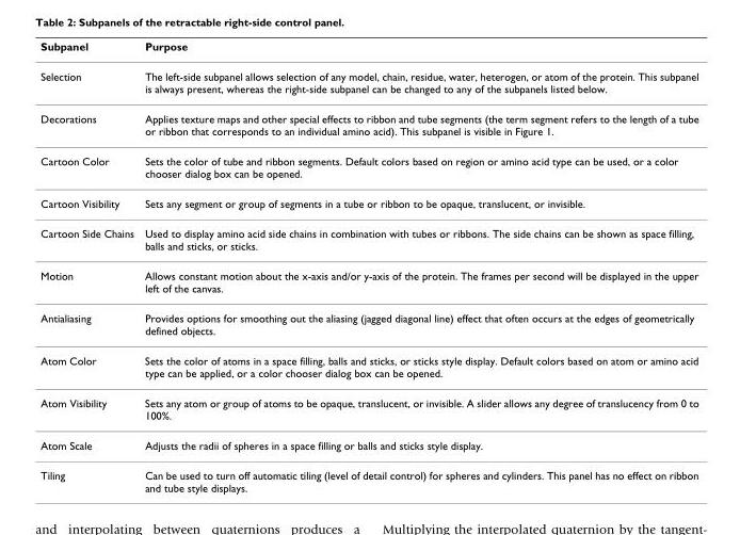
<table><thead><tr><td>Subpanel</td><td>Purpose</td></tr></thead><tbody><tr><td>Selection</td><td>The left-side subpanel allows selection of any model, chain, residue, water, heterogen, or atom of the protein. This subpanel is always present, whereas the right-side subpanel can be changed to any of the subpanels listed below.</td></tr><tr><td>Decorations</td><td>Applies texture maps and other special effects to ribbon and tube segments (the term segment refers to the length of a tube or ribbon that corresponds to an individual amino acid). This subpanel is visible in Figure 1.</td></tr><tr><td>Cartoon Color</td><td>Sets the color of tube and ribbon segments. Default colors based on region or amino acid type can be used, or a color chooser dialog box can be opened.</td></tr><tr><td>Cartoon Visibility</td><td>Sets any segment or group of segments in a tube or ribbon to be opaque, translucent, or invisible.</td></tr><tr><td>Cartoon Side Chains</td><td>Used to display amino acid side chains in combination with tubes or ribbons. The side chains can be shown as space filling, balls and sticks, or sticks.</td></tr><tr><td>Motion</td><td>Allows constant motion about the x-axis and/or y-axis of the protein. The frames per second will be displayed in the upper left of the canvas.</td></tr><tr><td>Antialiasing</td><td>Provides options for smoothing out the aliasing (jagged diagonal line) effect that often occurs at the edges of geometrically defined objects.</td></tr><tr><td>Atom Color</td><td>Sets the color of atoms in a space filling, balls and sticks, or sticks style display. Default colors based on atom or amino acid type can be applied, or a color chooser dialog box can be opened.</td></tr><tr><td>Atom Visibility</td><td>Sets any atom or group of atoms to be opaque, translucent, or invisible. A slider allows any degree of translucency from 0 to 100%.</td></tr><tr><td>Atom Scale</td><td>Adjusts the radii of spheres in a space filling or balls and sticks style display.</td></tr><tr><td>Tiling</td><td>Can be used to turn off automatic tiling (level of detail control) for spheres and cylinders. This panel has no effect on ribbon and tube style displays.</td></tr></tbody></table>